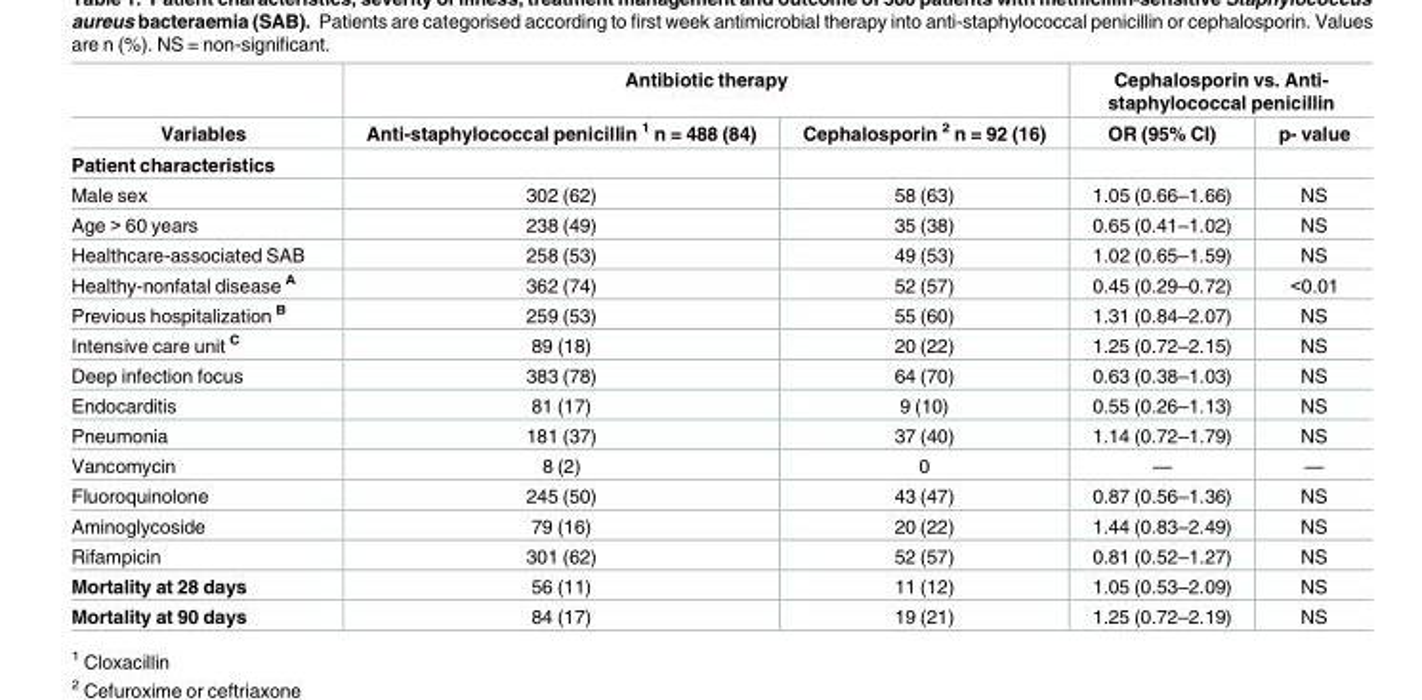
<table><thead><tr><td rowspan="2">Variables</td><td colspan="2">Antibiotic therapy</td><td colspan="2">Cephalosporin vs. Anti- staphylococcal penicillin</td></tr><tr><td>Anti-staphylococcal penicillin <sup>1</sup> n = 488 (84)</td><td>Cephalosporin <sup>2</sup> n = 92 (16)</td><td>OR (95% CI)</td><td>p- value</td></tr></thead><tbody><tr><td colspan="5">Patient characteristics</td></tr><tr><td>Male sex</td><td>302 (62)</td><td>58 (63)</td><td>1.05 (0.66–1.66)</td><td>NS</td></tr><tr><td>Age &gt; 60 years</td><td>238 (49)</td><td>35 (38)</td><td>0.65 (0.41–1.02)</td><td>NS</td></tr><tr><td>Healthcare-associated SAB</td><td>258 (53)</td><td>49 (53)</td><td>1.02 (0.65–1.59)</td><td>NS</td></tr><tr><td>Healthy-nonfatal disease <sup>A</sup></td><td>362 (74)</td><td>52 (57)</td><td>0.45 (0.29–0.72)</td><td>&lt;0.01</td></tr><tr><td>Previous hospitalization <sup>B</sup></td><td>259 (53)</td><td>55 (60)</td><td>1.31 (0.84–2.07)</td><td>NS</td></tr><tr><td>Intensive care unit <sup>C</sup></td><td>89 (18)</td><td>20 (22)</td><td>1.25 (0.72–2.15)</td><td>NS</td></tr><tr><td>Deep infection focus</td><td>383 (78)</td><td>64 (70)</td><td>0.63 (0.38–1.03)</td><td>NS</td></tr><tr><td>Endocarditis</td><td>81 (17)</td><td>9 (10)</td><td>0.55 (0.26–1.13)</td><td>NS</td></tr><tr><td>Pneumonia</td><td>181 (37)</td><td>37 (40)</td><td>1.14 (0.72–1.79)</td><td>NS</td></tr><tr><td>Vancomycin</td><td>8 (2)</td><td>0</td><td>—</td><td>—</td></tr><tr><td>Fluoroquinolone</td><td>245 (50)</td><td>43 (47)</td><td>0.87 (0.56–1.36)</td><td>NS</td></tr><tr><td>Aminoglycoside</td><td>79 (16)</td><td>20 (22)</td><td>1.44 (0.83–2.49)</td><td>NS</td></tr><tr><td>Rifampicin</td><td>301 (62)</td><td>52 (57)</td><td>0.81 (0.52–1.27)</td><td>NS</td></tr><tr><td>Mortality at 28 days</td><td>56 (11)</td><td>11 (12)</td><td>1.05 (0.53–2.09)</td><td>NS</td></tr><tr><td>Mortality at 90 days</td><td>84 (17)</td><td>19 (21)</td><td>1.25 (0.72–2.19)</td><td>NS</td></tr></tbody></table>